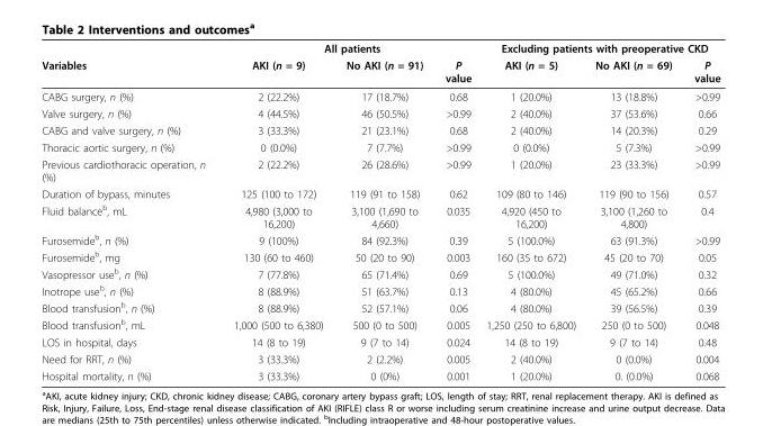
<table><thead><tr><td rowspan="2">Variables</td><td colspan="3">All patients</td><td colspan="3">Excluding patients with preoperative CKD</td></tr><tr><td>AKI (n = 9)</td><td>No AKI (n = 91)</td><td>P value</td><td>AKI (n = 5)</td><td>No AKI (n = 69)</td><td>P value</td></tr></thead><tbody><tr><td>CABG surgery, n (%)</td><td>2 (22.2%)</td><td>17 (18.7%)</td><td>0.68</td><td>1 (20.0%)</td><td>13 (18.8%)</td><td>&gt;0.99</td></tr><tr><td>Valve surgery, n (%)</td><td>4 (44.5%)</td><td>46 (50.5%)</td><td>&gt;0.99</td><td>2 (40.0%)</td><td>37 (53.6%)</td><td>0.66</td></tr><tr><td>CABG and valve surgery, n (%)</td><td>3 (33.3%)</td><td>21 (23.1%)</td><td>0.68</td><td>2 (40.0%)</td><td>14 (20.3%)</td><td>0.29</td></tr><tr><td>Thoracic aortic surgery, n (%)</td><td>0 (0.0%)</td><td>7 (7.7%)</td><td>&gt;0.99</td><td>0 (0.0%)</td><td>5 (7.3%)</td><td>&gt;0.99</td></tr><tr><td>Previous cardiothoracic operation, n (%)</td><td>2 (22.2%)</td><td>26 (28.6%)</td><td>&gt;0.99</td><td>1 (20.0%)</td><td>23 (33.3%)</td><td>&gt;0.99</td></tr><tr><td>Duration of bypass, minutes</td><td>125 (100 to 172)</td><td>119 (91 to 158)</td><td>0.62</td><td>109 (80 to 146)</td><td>119 (90 to 156)</td><td>0.57</td></tr><tr><td>Fluid balance<sup>b</sup>, mL</td><td>4,980 (3,000 to 16,200)</td><td>3,100 (1,690 to 4,660)</td><td>0.035</td><td>4,920 (450 to 16,200)</td><td>3,100 (1,260 to 4,800)</td><td>0.4</td></tr><tr><td>Furosemide<sup>b</sup>, n (%)</td><td>9 (100%)</td><td>84 (92.3%)</td><td>0.39</td><td>5 (100.0%)</td><td>63 (91.3%)</td><td>&gt;0.99</td></tr><tr><td>Furosemide<sup>b</sup>, mg</td><td>130 (60 to 460)</td><td>50 (20 to 90)</td><td>0.003</td><td>160 (35 to 672)</td><td>45 (20 to 70)</td><td>0.05</td></tr><tr><td>Vasopressor use<sup>b</sup>, n (%)</td><td>7 (77.8%)</td><td>65 (71.4%)</td><td>0.69</td><td>5 (100.0%)</td><td>49 (71.0%)</td><td>0.32</td></tr><tr><td>Inotrope use<sup>b</sup>, n (%)</td><td>8 (88.9%)</td><td>51 (63.7%)</td><td>0.13</td><td>4 (80.0%)</td><td>45 (65.2%)</td><td>0.66</td></tr><tr><td>Blood transfusion<sup>b</sup>, n (%)</td><td>8 (88.9%)</td><td>52 (57.1%)</td><td>0.06</td><td>4 (80.0%)</td><td>39 (56.5%)</td><td>0.39</td></tr><tr><td>Blood transfusion<sup>b</sup>, mL</td><td>1,000 (500 to 6,380)</td><td>500 (0 to 500)</td><td>0.005</td><td>1,250 (250 to 6,800)</td><td>250 (0 to 500)</td><td>0.048</td></tr><tr><td>LOS in hospital, days</td><td>14 (8 to 19)</td><td>9 (7 to 14)</td><td>0.024</td><td>14 (8 to 19)</td><td>9 (7 to 14)</td><td>0.48</td></tr><tr><td>Need for RRT, n (%)</td><td>3 (33.3%)</td><td>2 (2.2%)</td><td>0.005</td><td>2 (40.0%)</td><td>0 (0.0%)</td><td>0.004</td></tr><tr><td>Hospital mortality, n (%)</td><td>3 (33.3%)</td><td>0 (0%)</td><td>0.001</td><td>1 (20.0%)</td><td>0. (0.0%)</td><td>0.068</td></tr></tbody></table>